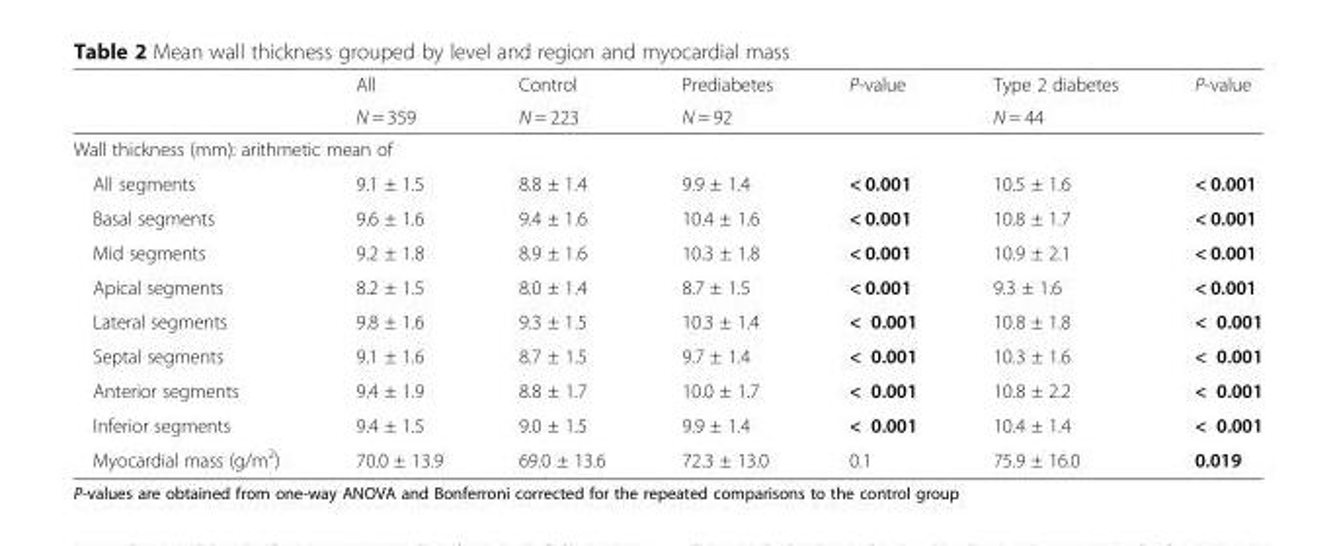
<table><thead><tr><td rowspan="2"></td><td rowspan="2">All N = 359</td><td rowspan="2">Control N = 223</td><td rowspan="2">Prediabetes N = 92</td><td rowspan="2">P-value</td><td rowspan="2">Type 2 diabetes N = 44</td><td rowspan="2">P-value</td></tr><tr></tr></thead><tbody><tr><td colspan="7">Wall thickness (mm): arithmetic mean of</td></tr><tr><td>All segments</td><td>9.1 ± 1.5</td><td>8.8 ± 1.4</td><td>9.9 ± 1.4</td><td>&lt; 0.001</td><td>10.5 ± 1.6</td><td>&lt; 0.001</td></tr><tr><td>Basal segments</td><td>9.6 ± 1.6</td><td>9.4 ± 1.6</td><td>10.4 ± 1.6</td><td>&lt; 0.001</td><td>10.8 ± 1.7</td><td>&lt; 0.001</td></tr><tr><td>Mid segments</td><td>9.2 ± 1.8</td><td>8.9 ± 1.6</td><td>10.3 ± 1.8</td><td>&lt; 0.001</td><td>10.9 ± 2.1</td><td>&lt; 0.001</td></tr><tr><td>Apical segments</td><td>8.2 ± 1.5</td><td>8.0 ± 1.4</td><td>8.7 ± 1.5</td><td>&lt; 0.001</td><td>9.3 ± 1.6</td><td>&lt; 0.001</td></tr><tr><td>Lateral segments</td><td>9.8 ± 1.6</td><td>9.3 ± 1.5</td><td>10.3 ± 1.4</td><td>&lt; 0.001</td><td>10.8 ± 1.8</td><td>&lt; 0.001</td></tr><tr><td>Septal segments</td><td>9.1 ± 1.6</td><td>8.7 ± 1.5</td><td>9.7 ± 1.4</td><td>&lt; 0.001</td><td>10.3 ± 1.6</td><td>&lt; 0.001</td></tr><tr><td>Anterior segments</td><td>9.4 ± 1.9</td><td>8.8 ± 1.7</td><td>10.0 ± 1.7</td><td>&lt; 0.001</td><td>10.8 ± 2.2</td><td>&lt; 0.001</td></tr><tr><td>Inferior segments</td><td>9.4 ± 1.5</td><td>9.0 ± 1.5</td><td>9.9 ± 1.4</td><td>&lt; 0.001</td><td>10.4 ± 1.4</td><td>&lt; 0.001</td></tr><tr><td>Myocardial mass (g/m<sup>2</sup>)</td><td>70.0 ± 13.9</td><td>69.0 ± 13.6</td><td>72.3 ± 13.0</td><td>0.1</td><td>75.9 ± 16.0</td><td>0.019</td></tr></tbody></table>